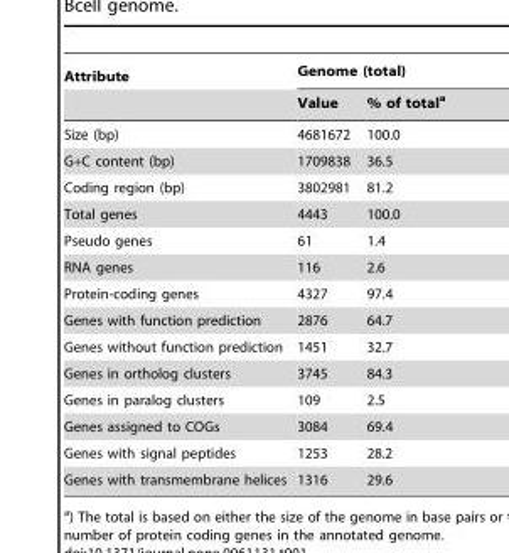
<table><thead><tr><td rowspan="2">Attribute</td><td colspan="2">Genome (total)</td></tr><tr><td>Value</td><td>% of total<sup>a</sup></td></tr></thead><tbody><tr><td>Size (bp)</td><td>4681672</td><td>100.0</td></tr><tr><td>G+C content (bp)</td><td>1709838</td><td>36.5</td></tr><tr><td>Coding region (bp)</td><td>3802981</td><td>81.2</td></tr><tr><td>Total genes</td><td>4443</td><td>100.0</td></tr><tr><td>Pseudo genes</td><td>61</td><td>1.4</td></tr><tr><td>RNA genes</td><td>116</td><td>2.6</td></tr><tr><td>Protein-coding genes</td><td>4327</td><td>97.4</td></tr><tr><td>Genes with function prediction</td><td>2876</td><td>64.7</td></tr><tr><td>Genes without function prediction</td><td>1451</td><td>32.7</td></tr><tr><td>Genes in ortholog clusters</td><td>3745</td><td>84.3</td></tr><tr><td>Genes in paralog clusters</td><td>109</td><td>2.5</td></tr><tr><td>Genes assigned to COGs</td><td>3084</td><td>69.4</td></tr><tr><td>Genes with signal peptides</td><td>1253</td><td>28.2</td></tr><tr><td>Genes with transmembrane helices</td><td>1316</td><td>29.6</td></tr></tbody></table>